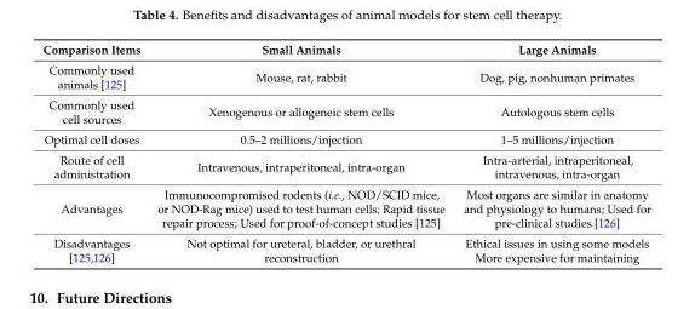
<table><thead><tr><td>Comparison Items</td><td>Small Animals</td><td>Large Animals</td></tr></thead><tbody><tr><td>Commonly used animals [125]</td><td>Mouse, rat, rabbit</td><td>Dog, pig, nonhuman primates</td></tr><tr><td>Commonly used cell sources</td><td>Xenogenous or allogeneic stem cells</td><td>Autologous stem cells</td></tr><tr><td>Optimal cell doses</td><td>0.5–2 millions/injection</td><td>1–5 millions/injection</td></tr><tr><td>Route of cell administration</td><td>Intravenous, intraperitoneal, intra-organ</td><td>Intra-arterial, intraperitoneal, intravenous, intra-organ</td></tr><tr><td>Advantages</td><td>Immunocompromised rodents (i.e., NOD/SCID mice, or NOD-Rag mice) used to test human cells; Rapid tissue repair process; Used for proof-of-concept studies [125]</td><td>Most organs are similar in anatomy and physiology to humans; Used for pre-clinical studies [126]</td></tr><tr><td>Disadvantages [125,126]</td><td>Not optimal for ureteral, bladder, or urethral reconstruction</td><td>Ethical issues in using some models More expensive for maintaining</td></tr></tbody></table>